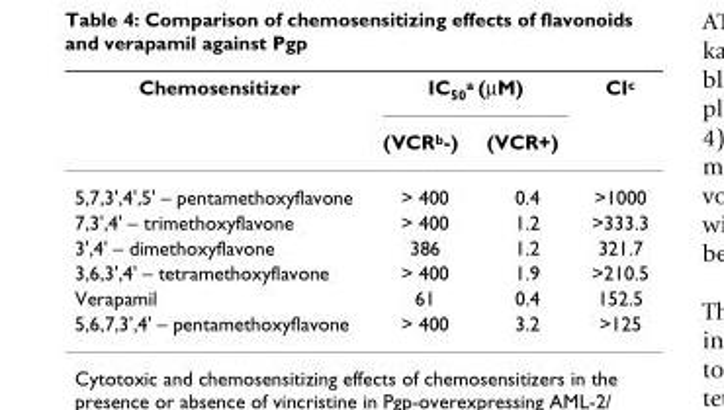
<table><thead><tr><td rowspan="2">Chemosensitizer</td><td colspan="2">IC<sub>50</sub><sup>a</sup> (µM)</td><td rowspan="2">CI<sup>c</sup></td></tr><tr><td>(VCR<sup>b</sup>-)</td><td>(VCR+)</td></tr></thead><tbody><tr><td>5,7,3&#x27;,4&#x27;,5&#x27; – pentamethoxyflavone</td><td>&gt; 400</td><td>0.4</td><td>&gt;1000</td></tr><tr><td>7,3&#x27;,4&#x27; – trimethoxyflavone</td><td>&gt; 400</td><td>1.2</td><td>&gt;333.3</td></tr><tr><td>3&#x27;,4&#x27; – dimethoxyflavone</td><td>386</td><td>1.2</td><td>321.7</td></tr><tr><td>3,6,3&#x27;,4&#x27; – tetramethoxyflavone</td><td>&gt; 400</td><td>1.9</td><td>&gt;210.5</td></tr><tr><td>Verapamil</td><td>61</td><td>0.4</td><td>152.5</td></tr><tr><td>5,6,7,3&#x27;,4&#x27; – pentamethoxyflavone</td><td>&gt; 400</td><td>3.2</td><td>&gt;125</td></tr></tbody></table>